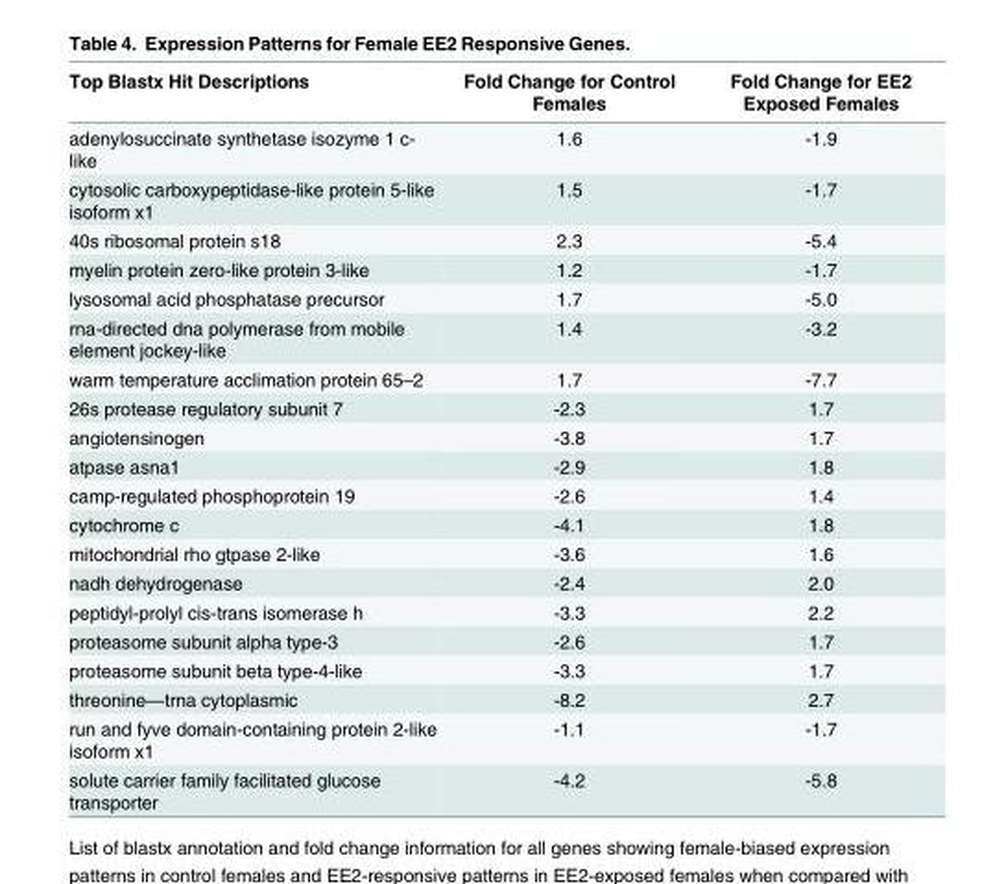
<table><thead><tr><td>Top Blastx Hit Descriptions</td><td>Fold Change for Control Females</td><td>Fold Change for EE2 Exposed Females</td></tr></thead><tbody><tr><td>adenylosuccinate synthetase isozyme 1 c- like</td><td>1.6</td><td>-1.9</td></tr><tr><td>cytosolic carboxypeptidase-like protein 5-like isoform x1</td><td>1.5</td><td>-1.7</td></tr><tr><td>40s ribosomal protein s18</td><td>2.3</td><td>-5.4</td></tr><tr><td>myelin protein zero-like protein 3-like</td><td>1.2</td><td>-1.7</td></tr><tr><td>lysosomal acid phosphatase precursor</td><td>1.7</td><td>-5.0</td></tr><tr><td>rna-directed dna polymerase from mobile element jockey-like</td><td>1.4</td><td>-3.2</td></tr><tr><td>warm temperature acclimation protein 65–2</td><td>1.7</td><td>-7.7</td></tr><tr><td>26s protease regulatory subunit 7</td><td>-2.3</td><td>1.7</td></tr><tr><td>angiotensinogen</td><td>-3.8</td><td>1.7</td></tr><tr><td>atpase asna1</td><td>-2.9</td><td>1.8</td></tr><tr><td>camp-regulated phosphoprotein 19</td><td>-2.6</td><td>1.4</td></tr><tr><td>cytochrome c</td><td>-4.1</td><td>1.8</td></tr><tr><td>mitochondrial rho gtpase 2-like</td><td>-3.6</td><td>1.6</td></tr><tr><td>nadh dehydrogenase</td><td>-2.4</td><td>2.0</td></tr><tr><td>peptidyl-prolyl cis-trans isomerase h</td><td>-3.3</td><td>2.2</td></tr><tr><td>proteasome subunit alpha type-3</td><td>-2.6</td><td>1.7</td></tr><tr><td>proteasome subunit beta type-4-like</td><td>-3.3</td><td>1.7</td></tr><tr><td>threonine—trna cytoplasmic</td><td>-8.2</td><td>2.7</td></tr><tr><td>run and fyve domain-containing protein 2-like isoform x1</td><td>-1.1</td><td>-1.7</td></tr><tr><td>solute carrier family facilitated glucose transporter</td><td>-4.2</td><td>-5.8</td></tr></tbody></table>